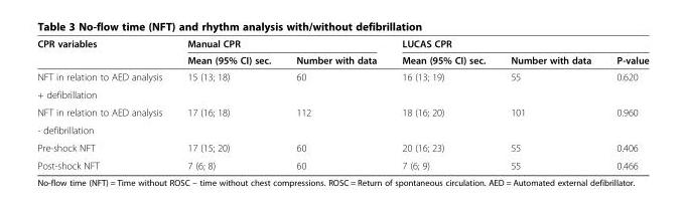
<table><thead><tr><td rowspan="2">CPR variables</td><td colspan="2">Manual CPR</td><td colspan="3">LUCAS CPR</td></tr><tr><td>Mean (95% CI) sec.</td><td>Number with data</td><td>Mean (95% CI) sec.</td><td>Number with data</td><td>P-value</td></tr></thead><tbody><tr><td>NFT in relation to AED analysis</td><td rowspan="2">15 (13; 18)</td><td rowspan="2">60</td><td rowspan="2">16 (13; 19)</td><td rowspan="2">55</td><td rowspan="2">0.620</td></tr><tr><td>+ defibrillation</td></tr><tr><td>NFT in relation to AED analysis</td><td rowspan="2">17 (16; 18)</td><td rowspan="2">112</td><td rowspan="2">18 (16; 20)</td><td rowspan="2">101</td><td rowspan="2">0.960</td></tr><tr><td>- defibrillation</td></tr><tr><td>Pre-shock NFT</td><td>17 (15; 20)</td><td>60</td><td>20 (16; 23)</td><td>55</td><td>0.406</td></tr><tr><td>Post-shock NFT</td><td>7 (6; 8)</td><td>60</td><td>7 (6; 9)</td><td>55</td><td>0.466</td></tr></tbody></table>